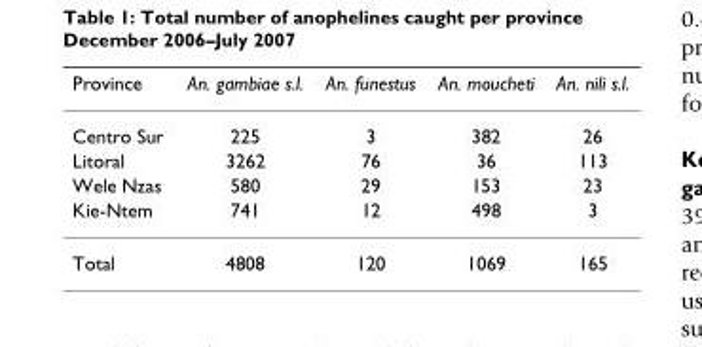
<table><thead><tr><td>Province</td><td>An. gambiae s.l.</td><td>An. funestus</td><td>An. moucheti</td><td>An. nili s.l.</td></tr></thead><tbody><tr><td>Centro Sur</td><td>225</td><td>3</td><td>382</td><td>26</td></tr><tr><td>Litoral</td><td>3262</td><td>76</td><td>36</td><td>113</td></tr><tr><td>Wele Nzas</td><td>580</td><td>29</td><td>153</td><td>23</td></tr><tr><td>Kie-Ntem</td><td>741</td><td>12</td><td>498</td><td>3</td></tr><tr><td>Total</td><td>4808</td><td>120</td><td>1069</td><td>165</td></tr></tbody></table>